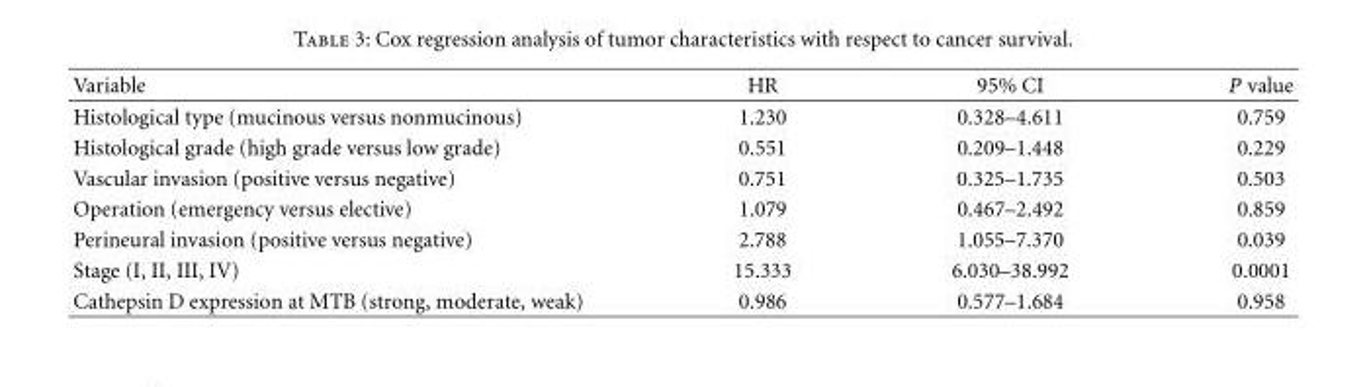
<table><thead><tr><td>Variable</td><td>HR</td><td>95% CI</td><td>P value</td></tr></thead><tbody><tr><td>Histological type (mucinous versus nonmucinous)</td><td>1.230</td><td>0.328–4.611</td><td>0.759</td></tr><tr><td>Histological grade (high grade versus low grade)</td><td>0.551</td><td>0.209–1.448</td><td>0.229</td></tr><tr><td>Vascular invasion (positive versus negative)</td><td>0.751</td><td>0.325–1.735</td><td>0.503</td></tr><tr><td>Operation (emergency versus elective)</td><td>1.079</td><td>0.467–2.492</td><td>0.859</td></tr><tr><td>Perineural invasion (positive versus negative)</td><td>2.788</td><td>1.055–7.370</td><td>0.039</td></tr><tr><td>Stage (I, II, III, IV)</td><td>15.333</td><td>6.030–38.992</td><td>0.0001</td></tr><tr><td>Cathepsin D expression at MTB (strong, moderate, weak)</td><td>0.986</td><td>0.577–1.684</td><td>0.958</td></tr></tbody></table>